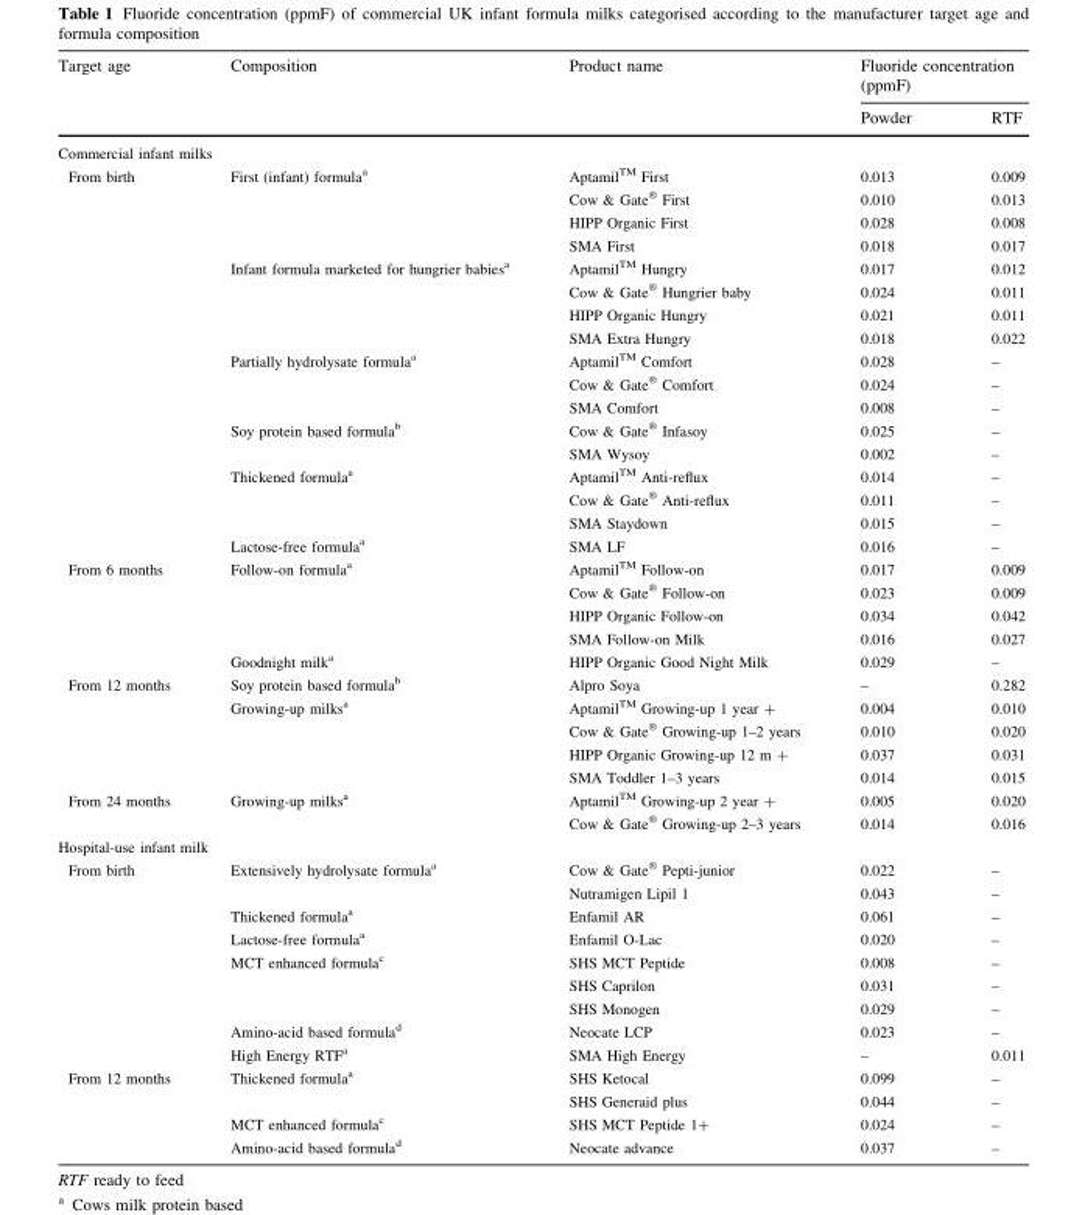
<table><thead><tr><td rowspan="2">Target age</td><td rowspan="2">Composition</td><td rowspan="2">Product name</td><td colspan="2">Fluoride concentration (ppmF)</td></tr><tr><td>Powder</td><td>RTF</td></tr></thead><tbody><tr><td colspan="5">Commercial infant milks</td></tr><tr><td rowspan="17">From birth</td><td rowspan="4">First (infant) formula<sup>a</sup></td><td>AptamilTM First</td><td>0.013</td><td>0.009</td></tr><tr><td>Cow &amp; Gate<sup>®</sup> First</td><td>0.010</td><td>0.013</td></tr><tr><td>HIPP Organic First</td><td>0.028</td><td>0.008</td></tr><tr><td>SMA First</td><td>0.018</td><td>0.017</td></tr><tr><td rowspan="4">Infant formula marketed for hungrier babies<sup>a</sup></td><td>AptamilTM Hungry</td><td>0.017</td><td>0.012</td></tr><tr><td>Cow &amp; Gate<sup>®</sup> Hungrier baby</td><td>0.024</td><td>0.011</td></tr><tr><td>HIPP Organic Hungry</td><td>0.021</td><td>0.011</td></tr><tr><td>SMA Extra Hungry</td><td>0.018</td><td>0.022</td></tr><tr><td rowspan="3">Partially hydrolysate formula<sup>a</sup></td><td>AptamilTM Comfort</td><td>0.028</td><td>–</td></tr><tr><td>Cow &amp; Gate<sup>®</sup> Comfort</td><td>0.024</td><td>–</td></tr><tr><td>SMA Comfort</td><td>0.008</td><td>–</td></tr><tr><td rowspan="2">Soy protein based formula<sup>b</sup></td><td>Cow &amp; Gate<sup>®</sup> Infasoy</td><td>0.025</td><td>–</td></tr><tr><td>SMA Wysoy</td><td>0.002</td><td>–</td></tr><tr><td rowspan="3">Thickened formula<sup>a</sup></td><td>AptamilTM Anti-reflux</td><td>0.014</td><td>–</td></tr><tr><td>Cow &amp; Gate<sup>®</sup> Anti-reflux</td><td>0.011</td><td>–</td></tr><tr><td>SMA Staydown</td><td>0.015</td><td>–</td></tr><tr><td>Lactose-free formula<sup>a</sup></td><td>SMA LF</td><td>0.016</td><td>–</td></tr><tr><td rowspan="5">From 6 months</td><td rowspan="4">Follow-on formula<sup>a</sup></td><td>AptamilTM Follow-on</td><td>0.017</td><td>0.009</td></tr><tr><td>Cow &amp; Gate<sup>®</sup> Follow-on</td><td>0.023</td><td>0.009</td></tr><tr><td>HIPP Organic Follow-on</td><td>0.034</td><td>0.042</td></tr><tr><td>SMA Follow-on Milk</td><td>0.016</td><td>0.027</td></tr><tr><td>Goodnight milk<sup>a</sup></td><td>HIPP Organic Good Night Milk</td><td>0.029</td><td>–</td></tr><tr><td rowspan="5">From 12 months</td><td>Soy protein based formula<sup>b</sup></td><td>Alpro Soya</td><td>–</td><td>0.282</td></tr><tr><td rowspan="4">Growing-up milks<sup>a</sup></td><td>AptamilTM Growing-up 1 year ?</td><td>0.004</td><td>0.010</td></tr><tr><td>Cow &amp; Gate<sup>®</sup> Growing-up 1–2 years</td><td>0.010</td><td>0.020</td></tr><tr><td>HIPP Organic Growing-up 12 m +</td><td>0.037</td><td>0.031</td></tr><tr><td>SMA Toddler 1–3 years</td><td>0.014</td><td>0.015</td></tr><tr><td rowspan="2">From 24 months</td><td rowspan="2">Growing-up milks<sup>a</sup></td><td>AptamilTM Growing-up 2 year ?</td><td>0.005</td><td>0.020</td></tr><tr><td>Cow &amp; Gate<sup>®</sup> Growing-up 2–3 years</td><td>0.014</td><td>0.016</td></tr><tr><td colspan="5">Hospital-use infant milk</td></tr><tr><td rowspan="9">From birth</td><td>Extensively hydrolysate formula<sup>a</sup></td><td>Cow &amp; Gate<sup>®</sup> Pepti-junior</td><td>0.022</td><td>–</td></tr><tr><td></td><td>Nutramigen Lipil 1</td><td>0.043</td><td>–</td></tr><tr><td>Thickened formula<sup>a</sup></td><td>Enfamil AR</td><td>0.061</td><td>–</td></tr><tr><td>Lactose-free formula<sup>a</sup></td><td>Enfamil O-Lac</td><td>0.020</td><td>–</td></tr><tr><td rowspan="3">MCT enhanced formula<sup>c</sup></td><td>SHS MCT Peptide</td><td>0.008</td><td>–</td></tr><tr><td>SHS Caprilon</td><td>0.031</td><td>–</td></tr><tr><td>SHS Monogen</td><td>0.029</td><td>–</td></tr><tr><td>Amino-acid based formula<sup>d</sup></td><td>Neocate LCP</td><td>0.023</td><td>–</td></tr><tr><td>High Energy RTF<sup>a</sup></td><td>SMA High Energy</td><td>–</td><td>0.011</td></tr><tr><td rowspan="4">From 12 months</td><td rowspan="2">Thickened formula<sup>a</sup></td><td>SHS Ketocal</td><td>0.099</td><td>–</td></tr><tr><td>SHS Generaid plus</td><td>0.044</td><td>–</td></tr><tr><td>MCT enhanced formula<sup>c</sup></td><td>SHS MCT Peptide 1+</td><td>0.024</td><td>–</td></tr><tr><td>Amino-acid based formula<sup>d</sup></td><td>Neocate advance</td><td>0.037</td><td>–</td></tr></tbody></table>